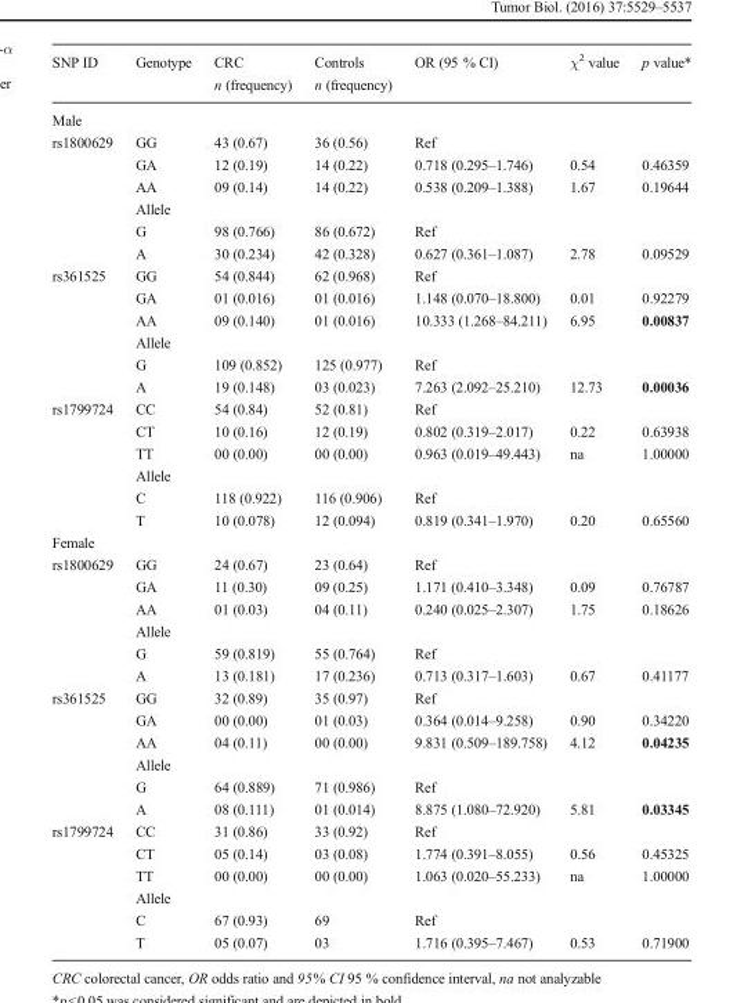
<table><thead><tr><td>SNP ID</td><td>Genotype</td><td>CRC n (frequency)</td><td>Controls n (frequency)</td><td>OR (95 % CI)</td><td>χ<sup>2</sup> value</td><td>p value*</td></tr></thead><tbody><tr><td colspan="7">Male</td></tr><tr><td rowspan="6">rs1800629</td><td>GG</td><td>43 (0.67)</td><td>36 (0.56)</td><td>Ref</td><td></td><td></td></tr><tr><td>GA</td><td>12 (0.19)</td><td>14 (0.22)</td><td>0.718 (0.295–1.746)</td><td>0.54</td><td>0.46359</td></tr><tr><td>AA</td><td>09 (0.14)</td><td>14 (0.22)</td><td>0.538 (0.209–1.388)</td><td>1.67</td><td>0.19644</td></tr><tr><td colspan="6">Allele</td></tr><tr><td>G</td><td>98 (0.766)</td><td>86 (0.672)</td><td>Ref</td><td></td><td></td></tr><tr><td>A</td><td>30 (0.234)</td><td>42 (0.328)</td><td>0.627 (0.361–1.087)</td><td>2.78</td><td>0.09529</td></tr><tr><td rowspan="6">rs361525</td><td>GG</td><td>54 (0.844)</td><td>62 (0.968)</td><td>Ref</td><td></td><td></td></tr><tr><td>GA</td><td>01 (0.016)</td><td>01 (0.016)</td><td>1.148 (0.070–18.800)</td><td>0.01</td><td>0.92279</td></tr><tr><td>AA</td><td>09 (0.140)</td><td>01 (0.016)</td><td>10.333 (1.268–84.211)</td><td>6.95</td><td>0.00837</td></tr><tr><td colspan="6">Allele</td></tr><tr><td>G</td><td>109 (0.852)</td><td>125 (0.977)</td><td>Ref</td><td></td><td></td></tr><tr><td>A</td><td>19 (0.148)</td><td>03 (0.023)</td><td>7.263 (2.092–25.210)</td><td>12.73</td><td>0.00036</td></tr><tr><td rowspan="6">rs1799724</td><td>CC</td><td>54 (0.84)</td><td>52 (0.81)</td><td>Ref</td><td></td><td></td></tr><tr><td>CT</td><td>10 (0.16)</td><td>12 (0.19)</td><td>0.802 (0.319–2.017)</td><td>0.22</td><td>0.63938</td></tr><tr><td>TT</td><td>00 (0.00)</td><td>00 (0.00)</td><td>0.963 (0.019–49.443)</td><td>na</td><td>1.00000</td></tr><tr><td colspan="6">Allele</td></tr><tr><td>C</td><td>118 (0.922)</td><td>116 (0.906)</td><td>Ref</td><td></td><td></td></tr><tr><td>T</td><td>10 (0.078)</td><td>12 (0.094)</td><td>0.819 (0.341–1.970)</td><td>0.20</td><td>0.65560</td></tr><tr><td colspan="7">Female</td></tr><tr><td rowspan="6">rs1800629</td><td>GG</td><td>24 (0.67)</td><td>23 (0.64)</td><td>Ref</td><td></td><td></td></tr><tr><td>GA</td><td>11 (0.30)</td><td>09 (0.25)</td><td>1.171 (0.410–3.348)</td><td>0.09</td><td>0.76787</td></tr><tr><td>AA</td><td>01 (0.03)</td><td>04 (0.11)</td><td>0.240 (0.025–2.307)</td><td>1.75</td><td>0.18626</td></tr><tr><td colspan="6">Allele</td></tr><tr><td>G</td><td>59 (0.819)</td><td>55 (0.764)</td><td>Ref</td><td></td><td></td></tr><tr><td>A</td><td>13 (0.181)</td><td>17 (0.236)</td><td>0.713 (0.317–1.603)</td><td>0.67</td><td>0.41177</td></tr><tr><td rowspan="6">rs361525</td><td>GG</td><td>32 (0.89)</td><td>35 (0.97)</td><td>Ref</td><td></td><td></td></tr><tr><td>GA</td><td>00 (0.00)</td><td>01 (0.03)</td><td>0.364 (0.014–9.258)</td><td>0.90</td><td>0.34220</td></tr><tr><td>AA</td><td>04 (0.11)</td><td>00 (0.00)</td><td>9.831 (0.509–189.758)</td><td>4.12</td><td>0.04235</td></tr><tr><td colspan="6">Allele</td></tr><tr><td>G</td><td>64 (0.889)</td><td>71 (0.986)</td><td>Ref</td><td></td><td></td></tr><tr><td>A</td><td>08 (0.111)</td><td>01 (0.014)</td><td>8.875 (1.080–72.920)</td><td>5.81</td><td>0.03345</td></tr><tr><td rowspan="6">rs1799724</td><td>CC</td><td>31 (0.86)</td><td>33 (0.92)</td><td>Ref</td><td></td><td></td></tr><tr><td>CT</td><td>05 (0.14)</td><td>03 (0.08)</td><td>1.774 (0.391–8.055)</td><td>0.56</td><td>0.45325</td></tr><tr><td>TT</td><td>00 (0.00)</td><td>00 (0.00)</td><td>1.063 (0.020–55.233)</td><td>na</td><td>1.00000</td></tr><tr><td colspan="6">Allele</td></tr><tr><td>C</td><td>67 (0.93)</td><td>69</td><td>Ref</td><td></td><td></td></tr><tr><td>T</td><td>05 (0.07)</td><td>03</td><td>1.716 (0.395–7.467)</td><td>0.53</td><td>0.71900</td></tr></tbody></table>